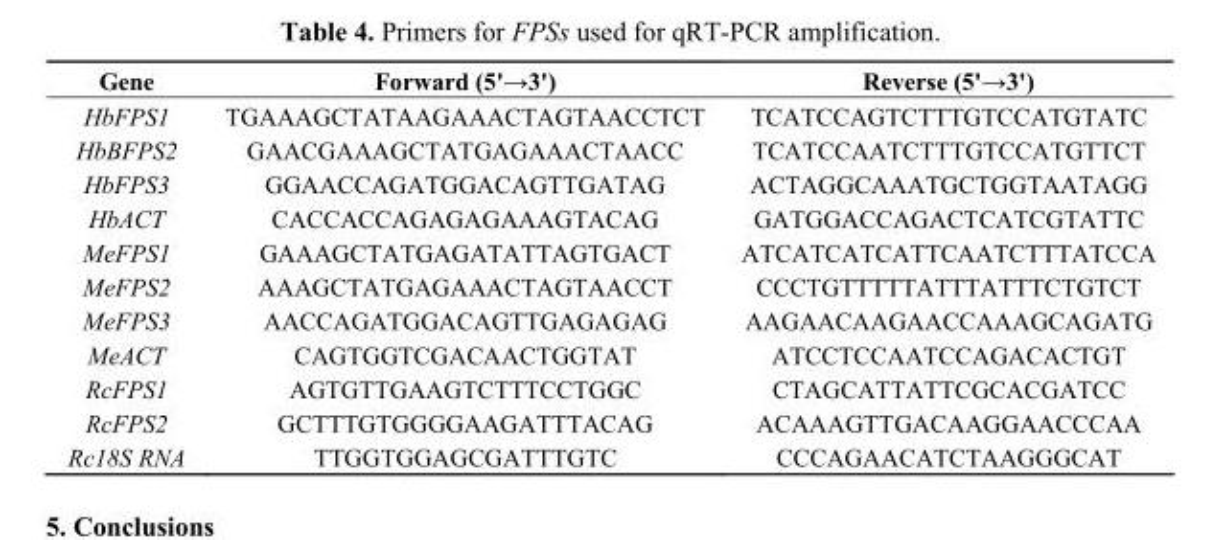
<table><thead><tr><td>Gene</td><td>Forward (5&#x27;→3&#x27;)</td><td>Reverse (5&#x27;→3&#x27;)</td></tr></thead><tbody><tr><td>HbFPS1</td><td>TGAAAGCTATAAGAAACTAGTAACCTCT</td><td>TCATCCAGTCTTTGTCCATGTATC</td></tr><tr><td>HbBFPS2</td><td>GAACGAAAGCTATGAGAAACTAACC</td><td>TCATCCAATCTTTGTCCATGTTCT</td></tr><tr><td>HbFPS3</td><td>GGAACCAGATGGACAGTTGATAG</td><td>ACTAGGCAAATGCTGGTAATAGG</td></tr><tr><td>HbACT</td><td>CACCACCAGAGAGAAAGTACAG</td><td>GATGGACCAGACTCATCGTATTC</td></tr><tr><td>MeFPS1</td><td>GAAAGCTATGAGATATTAGTGACT</td><td>ATCATCATCATTCAATCTTTATCCA</td></tr><tr><td>MeFPS2</td><td>AAAGCTATGAGAAACTAGTAACCT</td><td>CCCTGTTTTTATTTATTTCTGTCT</td></tr><tr><td>MeFPS3</td><td>AACCAGATGGACAGTTGAGAGAG</td><td>AAGAACAAGAACCAAAGCAGATG</td></tr><tr><td>MeACT</td><td>CAGTGGTCGACAACTGGTAT</td><td>ATCCTCCAATCCAGACACTGT</td></tr><tr><td>RcFPS1</td><td>AGTGTTGAAGTCTTTCCTGGC</td><td>CTAGCATTATTCGCACGATCC</td></tr><tr><td>RcFPS2</td><td>GCTTTGTGGGGAAGATTTACAG</td><td>ACAAAGTTGACAAGGAACCCAA</td></tr><tr><td>Rc18S RNA</td><td>TTGGTGGAGCGATTTGTC</td><td>CCCAGAACATCTAAGGGCAT</td></tr></tbody></table>